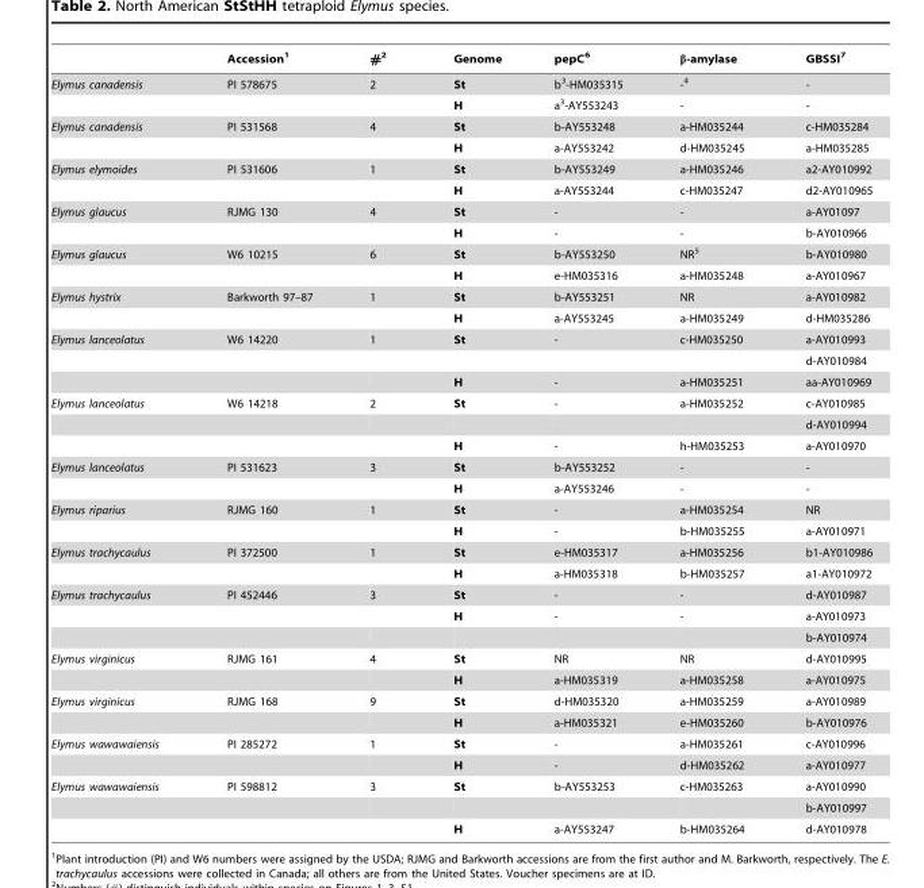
<table><thead><tr><td></td><td>Accession<sup>1</sup></td><td>#<sup>2</sup></td><td>Genome</td><td>pepC<sup>6</sup></td><td>β-amylase</td><td>GBSSI<sup>7</sup></td></tr></thead><tbody><tr><td rowspan="2">Elymus canadensis</td><td>PI 578675</td><td>2</td><td>St</td><td>b<sup>3</sup>-HM035315</td><td>-4</td><td>-</td></tr><tr><td></td><td></td><td>H</td><td>a<sup>3</sup>-AY553243</td><td>-</td><td>-</td></tr><tr><td rowspan="2">Elymus canadensis</td><td>PI 531568</td><td>4</td><td>St</td><td>b-AY553248</td><td>a-HM035244</td><td>c-HM035284</td></tr><tr><td></td><td></td><td>H</td><td>a-AY553242</td><td>d-HM035245</td><td>a-HM035285</td></tr><tr><td rowspan="2">Elymus elymoides</td><td>PI 531606</td><td>1</td><td>St</td><td>b-AY553249</td><td>a-HM035246</td><td>a2-AY010992</td></tr><tr><td></td><td></td><td>H</td><td>a-AY553244</td><td>c-HM035247</td><td>d2-AY010965</td></tr><tr><td rowspan="2">Elymus glaucus</td><td>RJMG 130</td><td>4</td><td>St</td><td>-</td><td>-</td><td>a-AY01097</td></tr><tr><td></td><td></td><td>H</td><td>-</td><td>-</td><td>b-AY010966</td></tr><tr><td rowspan="2">Elymus glaucus</td><td>W6 10215</td><td>6</td><td>St</td><td>b-AY553250</td><td>NR<sup>5</sup></td><td>b-AY010980</td></tr><tr><td></td><td></td><td>H</td><td>e-HM035316</td><td>a-HM035248</td><td>a-AY010967</td></tr><tr><td rowspan="2">Elymus hystrix</td><td>Barkworth 97–87</td><td>1</td><td>St</td><td>b-AY553251</td><td>NR</td><td>a-AY010982</td></tr><tr><td></td><td></td><td>H</td><td>a-AY553245</td><td>a-HM035249</td><td>d-HM035286</td></tr><tr><td rowspan="3">Elymus lanceolatus</td><td>W6 14220</td><td>1</td><td>St</td><td>-</td><td>c-HM035250</td><td>a-AY010993</td></tr><tr><td></td><td></td><td></td><td></td><td></td><td>d-AY010984</td></tr><tr><td></td><td></td><td>H</td><td>-</td><td>a-HM035251</td><td>aa-AY010969</td></tr><tr><td rowspan="3">Elymus lanceolatus</td><td>W6 14218</td><td>2</td><td>St</td><td>-</td><td>a-HM035252</td><td>c-AY010985</td></tr><tr><td></td><td></td><td></td><td></td><td></td><td>d-AY010994</td></tr><tr><td></td><td></td><td>H</td><td>-</td><td>h-HM035253</td><td>a-AY010970</td></tr><tr><td rowspan="2">Elymus lanceolatus</td><td>PI 531623</td><td>3</td><td>St</td><td>b-AY553252</td><td>-</td><td>-</td></tr><tr><td></td><td></td><td>H</td><td>a-AY553246</td><td>-</td><td>-</td></tr><tr><td rowspan="2">Elymus riparius</td><td>RJMG 160</td><td>1</td><td>St</td><td>-</td><td>a-HM035254</td><td>NR</td></tr><tr><td></td><td></td><td>H</td><td>-</td><td>b-HM035255</td><td>a-AY010971</td></tr><tr><td rowspan="2">Elymus trachycaulus</td><td>PI 372500</td><td>1</td><td>St</td><td>e-HM035317</td><td>a-HM035256</td><td>b1-AY010986</td></tr><tr><td></td><td></td><td>H</td><td>a-HM035318</td><td>b-HM035257</td><td>a1-AY010972</td></tr><tr><td rowspan="3">Elymus trachycaulus</td><td>PI 452446</td><td>3</td><td>St</td><td>-</td><td>-</td><td>d-AY010987</td></tr><tr><td></td><td></td><td>H</td><td>-</td><td>-</td><td>a-AY010973</td></tr><tr><td></td><td></td><td></td><td></td><td></td><td>b-AY010974</td></tr><tr><td rowspan="2">Elymus virginicus</td><td>RJMG 161</td><td>4</td><td>St</td><td>NR</td><td>NR</td><td>d-AY010995</td></tr><tr><td></td><td></td><td>H</td><td>a-HM035319</td><td>a-HM035258</td><td>a-AY010975</td></tr><tr><td rowspan="2">Elymus virginicus</td><td>RJMG 168</td><td>9</td><td>St</td><td>d-HM035320</td><td>a-HM035259</td><td>a-AY010989</td></tr><tr><td></td><td></td><td>H</td><td>a-HM035321</td><td>e-HM035260</td><td>b-AY010976</td></tr><tr><td rowspan="2">Elymus wawawaiensis</td><td>PI 285272</td><td>1</td><td>St</td><td>-</td><td>a-HM035261</td><td>c-AY010996</td></tr><tr><td></td><td></td><td>H</td><td>-</td><td>d-HM035262</td><td>a-AY010977</td></tr><tr><td rowspan="3">Elymus wawawaiensis</td><td>PI 598812</td><td>3</td><td>St</td><td>b-AY553253</td><td>c-HM035263</td><td>a-AY010990</td></tr><tr><td></td><td></td><td></td><td></td><td></td><td>b-AY010997</td></tr><tr><td></td><td></td><td>H</td><td>a-AY553247</td><td>b-HM035264</td><td>d-AY010978</td></tr></tbody></table>